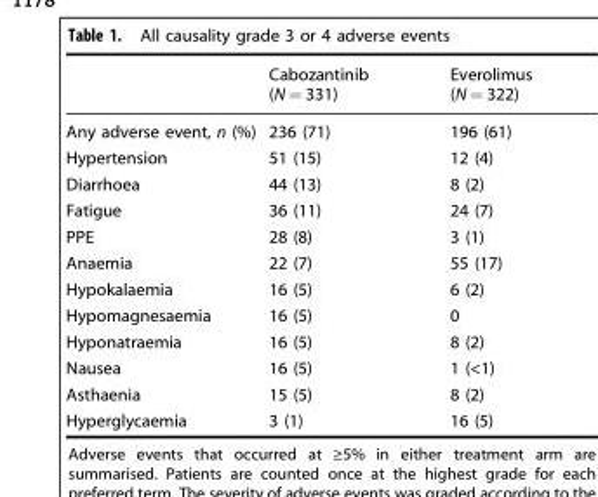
<table><thead><tr><td></td><td>Cabozantinib (N = 331)</td><td>Everolimus (N = 322)</td></tr></thead><tbody><tr><td>Any adverse event, n (%)</td><td>236 (71)</td><td>196 (61)</td></tr><tr><td>Hypertension</td><td>51 (15)</td><td>12 (4)</td></tr><tr><td>Diarrhoea</td><td>44 (13)</td><td>8 (2)</td></tr><tr><td>Fatigue</td><td>36 (11)</td><td>24 (7)</td></tr><tr><td>PPE</td><td>28 (8)</td><td>3 (1)</td></tr><tr><td>Anaemia</td><td>22 (7)</td><td>55 (17)</td></tr><tr><td>Hypokalaemia</td><td>16 (5)</td><td>6 (2)</td></tr><tr><td>Hypomagnesaemia</td><td>16 (5)</td><td>0</td></tr><tr><td>Hyponatraemia</td><td>16 (5)</td><td>8 (2)</td></tr><tr><td>Nausea</td><td>16 (5)</td><td>1 (&lt;1)</td></tr><tr><td>Asthaenia</td><td>15 (5)</td><td>8 (2)</td></tr><tr><td>Hyperglycaemia</td><td>3 (1)</td><td>16 (5)</td></tr></tbody></table>